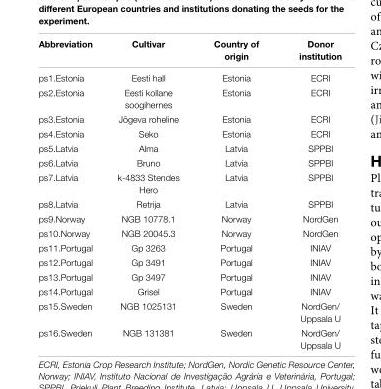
<table><thead><tr><td>Abbreviation</td><td>Cultivar</td><td>Country of origin</td><td>Donor institution</td></tr></thead><tbody><tr><td>ps1.Estonia</td><td>Eesti hall</td><td>Estonia</td><td>ECRI</td></tr><tr><td>ps2.Estonia</td><td>Eesti kollane soogihernes</td><td>Estonia</td><td>ECRI</td></tr><tr><td>ps3.Estonia</td><td>Jõgeva roheline</td><td>Estonia</td><td>ECRI</td></tr><tr><td>ps4.Estonia</td><td>Seko</td><td>Estonia</td><td>ECRI</td></tr><tr><td>ps5.Latvia</td><td>Alma</td><td>Latvia</td><td>SPPBI</td></tr><tr><td>ps6.Latvia</td><td>Bruno</td><td>Latvia</td><td>SPPBI</td></tr><tr><td>ps7.Latvia</td><td>k-4833 Stendes Hero</td><td>Latvia</td><td>SPPBI</td></tr><tr><td>ps8.Latvia</td><td>Retrija</td><td>Latvia</td><td>SPPBI</td></tr><tr><td>ps9.Norway</td><td>NGB 10778.1</td><td>Norway</td><td>NordGen</td></tr><tr><td>ps10.Norway</td><td>NGB 20045.3</td><td>Norway</td><td>NordGen</td></tr><tr><td>ps11.Portugal</td><td>Gp 3263</td><td>Portugal</td><td>INIAV</td></tr><tr><td>ps12.Portugal</td><td>Gp 3491</td><td>Portugal</td><td>INIAV</td></tr><tr><td>ps13.Portugal</td><td>Gp 3497</td><td>Portugal</td><td>INIAV</td></tr><tr><td>ps14.Portugal</td><td>Grisel</td><td>Portugal</td><td>INIAV</td></tr><tr><td>ps15.Sweden</td><td>NGB 1025131</td><td>Sweden</td><td>NordGen/ Uppsala U</td></tr><tr><td>ps16.Sweden</td><td>NGB 131381</td><td>Sweden</td><td>NordGen/ Uppsala U</td></tr></tbody></table>